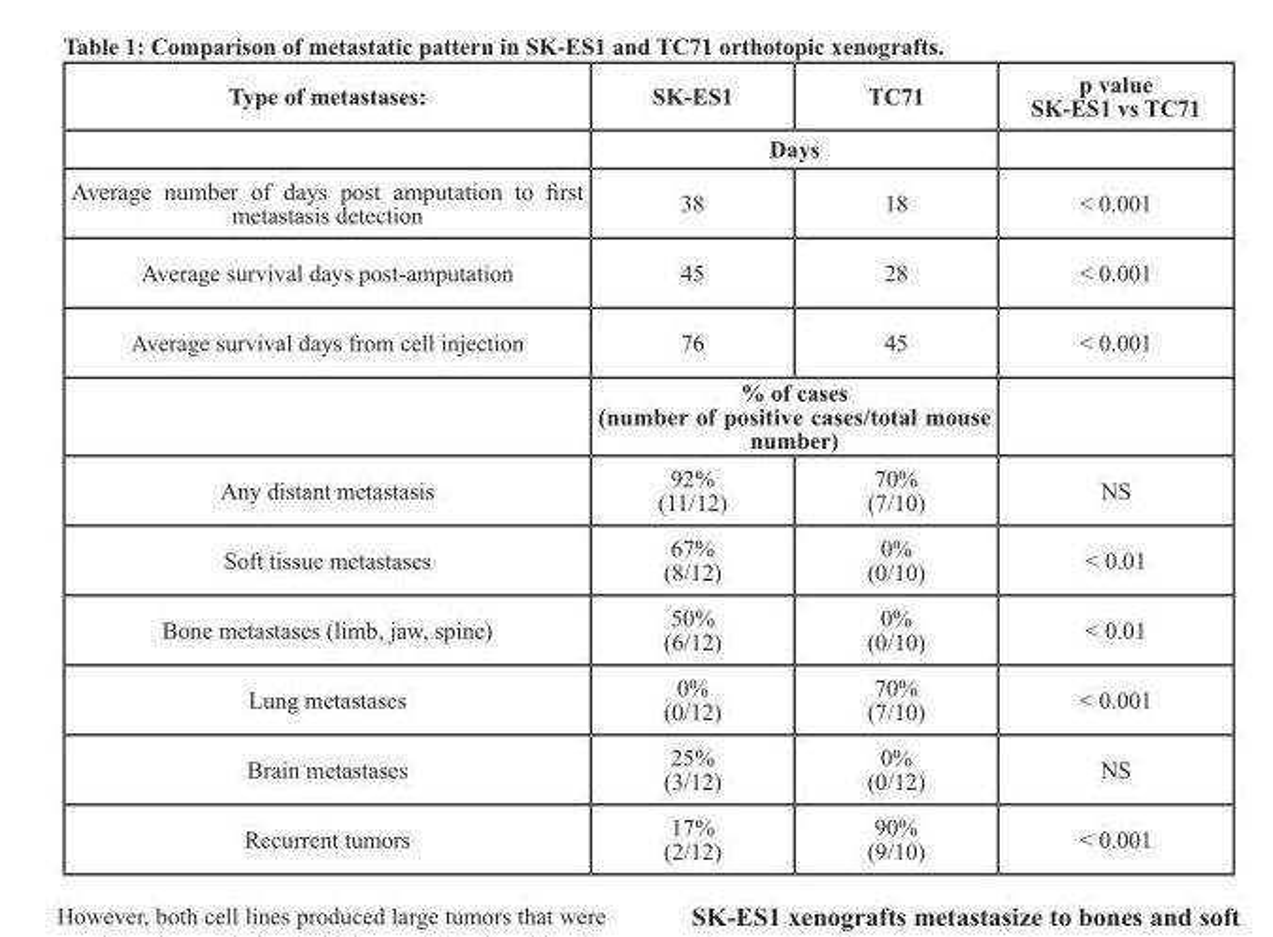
<table><thead><tr><td>Type of metastases:</td><td>SK-ES1</td><td>TC71</td><td>p value SK-ES1 vs TC71</td></tr></thead><tbody><tr><td></td><td colspan="2">Days</td><td></td></tr><tr><td>Average number of days post amputation to first metastasis detection</td><td>38</td><td>18</td><td>&lt; 0.001</td></tr><tr><td>Average survival days post-amputation</td><td>45</td><td>28</td><td>&lt; 0.001</td></tr><tr><td rowspan="2">Average survival days from cell injection</td><td>76</td><td>45</td><td>&lt; 0.001</td></tr><tr><td colspan="2">% of cases (number of positive cases/total mouse number)</td><td></td></tr><tr><td>Any distant metastasis</td><td>92% (11/12)</td><td>70% (7/10)</td><td>NS</td></tr><tr><td>Soft tissue metastases</td><td>67% (8/12)</td><td>0% (0/10)</td><td>&lt; 0.01</td></tr><tr><td>Bone metastases (limb, jaw, spine)</td><td>50% (6/12)</td><td>0% (0/10)</td><td>&lt; 0.01</td></tr><tr><td>Lung metastases</td><td>0% (0/12)</td><td>70% (7/10)</td><td>&lt; 0.001</td></tr><tr><td>Brain metastases</td><td>25% (3/12)</td><td>0% (0/12)</td><td>NS</td></tr><tr><td>Recurrent tumors</td><td>17% (2/12)</td><td>90% (9/10)</td><td>&lt; 0.001</td></tr></tbody></table>